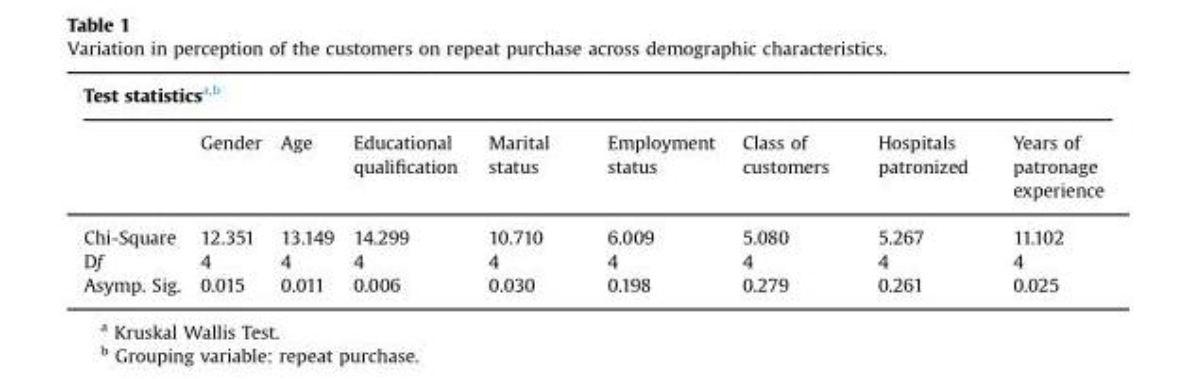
<table><thead><tr><td colspan="9">Test statistics<sup>a</sup>,<sup>b</sup></td></tr><tr><td></td><td>Gender</td><td>Age</td><td>Educational qualification</td><td>Marital status</td><td>Employment status</td><td>Class of customers</td><td>Hospitals patronized</td><td>Years of patronage experience</td></tr></thead><tbody><tr><td>Chi-Square</td><td>12.351</td><td>13.149</td><td>14.299</td><td>10.710</td><td>6.009</td><td>5.080</td><td>5.267</td><td>11.102</td></tr><tr><td>Df</td><td>4</td><td>4</td><td>4</td><td>4</td><td>4</td><td>4</td><td>4</td><td>4</td></tr><tr><td>Asymp. Sig.</td><td>0.015</td><td>0.011</td><td>0.006</td><td>0.030</td><td>0.198</td><td>0.279</td><td>0.261</td><td>0.025</td></tr></tbody></table>